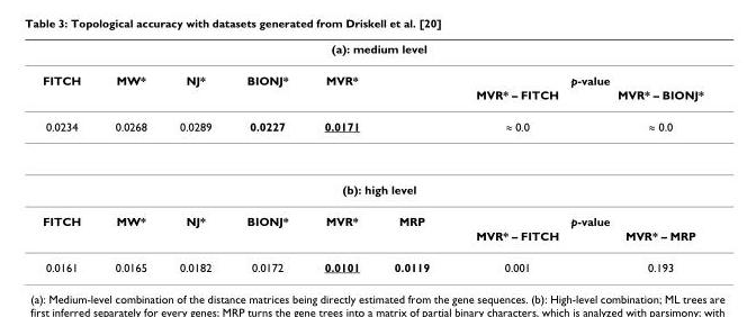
<table><thead><tr><td colspan="8">(a): medium level</td></tr><tr><td rowspan="2">FITCH</td><td rowspan="2">MW*</td><td rowspan="2">NJ*</td><td rowspan="2">BIONJ*</td><td rowspan="2">MVR*</td><td rowspan="2"></td><td colspan="2">p-value</td></tr><tr><td>MVR* – FITCH</td><td>MVR* – BIONJ*</td></tr></thead><tbody><tr><td>0.0234</td><td>0.0268</td><td>0.0289</td><td>0.0227</td><td>0.0171</td><td></td><td>≈ 0.0</td><td>≈ 0.0</td></tr><tr><td colspan="8">(b): high level</td></tr><tr><td rowspan="2">FITCH</td><td>MW*</td><td>NJ*</td><td>BIONJ*</td><td>MVR*</td><td>MRP</td><td colspan="2">p-value</td></tr><tr><td></td><td></td><td></td><td></td><td></td><td>MVR* – FITCH</td><td>MVR* – MRP</td></tr><tr><td>0.0161</td><td>0.0165</td><td>0.0182</td><td>0.0172</td><td>0.0101</td><td>0.0119</td><td>0.001</td><td>0.193</td></tr></tbody></table>